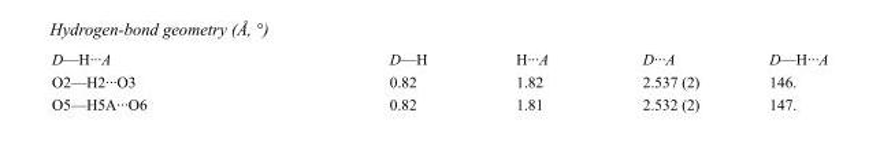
<table><tbody><tr><td>D—H···A</td><td>D—H</td><td>H···A</td><td>D···A</td><td>D—H···A</td></tr><tr><td>O2—H2···O3</td><td>0.82</td><td>1.82</td><td>2.537 (2)</td><td>146.</td></tr><tr><td>O5—H5A···O6</td><td>0.82</td><td>1.81</td><td>2.532 (2)</td><td>147.</td></tr></tbody></table>